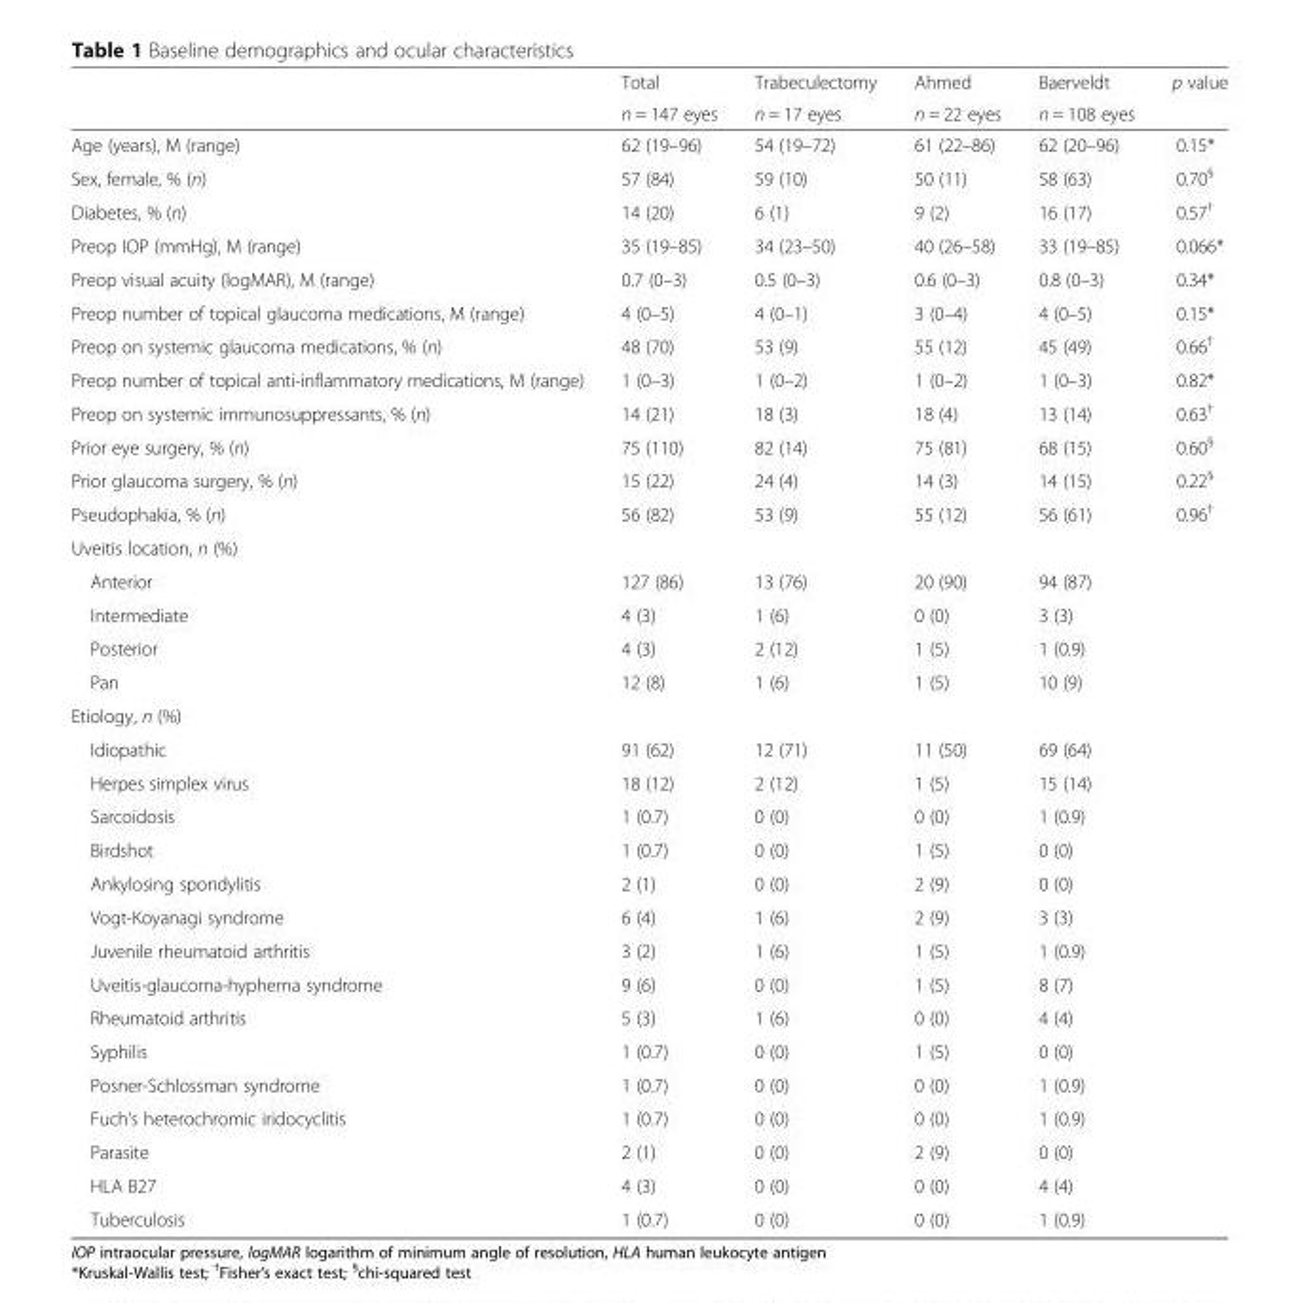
<table><thead><tr><td rowspan="2"></td><td rowspan="2">Total n = 147 eyes</td><td rowspan="2">Trabeculectomy n = 17 eyes</td><td rowspan="2">Ahmed n = 22 eyes</td><td rowspan="2">Baerveldt n = 108 eyes</td><td rowspan="2">p value</td></tr><tr></tr></thead><tbody><tr><td>Age (years), M (range)</td><td>62 (19–96)</td><td>54 (19–72)</td><td>61 (22–86)</td><td>62 (20–96)</td><td>0.15*</td></tr><tr><td>Sex, female, % (n)</td><td>57 (84)</td><td>59 (10)</td><td>50 (11)</td><td>58 (63)</td><td>0.70<sup>§</sup></td></tr><tr><td>Diabetes, % (n)</td><td>14 (20)</td><td>6 (1)</td><td>9 (2)</td><td>16 (17)</td><td>0.57<sup>†</sup></td></tr><tr><td>Preop IOP (mmHg), M (range)</td><td>35 (19–85)</td><td>34 (23–50)</td><td>40 (26–58)</td><td>33 (19–85)</td><td>0.066*</td></tr><tr><td>Preop visual acuity (logMAR), M (range)</td><td>0.7 (0–3)</td><td>0.5 (0–3)</td><td>0.6 (0–3)</td><td>0.8 (0–3)</td><td>0.34*</td></tr><tr><td>Preop number of topical glaucoma medications, M (range)</td><td>4 (0–5)</td><td>4 (0–1)</td><td>3 (0–4)</td><td>4 (0–5)</td><td>0.15*</td></tr><tr><td>Preop on systemic glaucoma medications, % (n)</td><td>48 (70)</td><td>53 (9)</td><td>55 (12)</td><td>45 (49)</td><td>0.66<sup>†</sup></td></tr><tr><td>Preop number of topical anti-inflammatory medications, M (range)</td><td>1 (0–3)</td><td>1 (0–2)</td><td>1 (0–2)</td><td>1 (0–3)</td><td>0.82*</td></tr><tr><td>Preop on systemic immunosuppressants, % (n)</td><td>14 (21)</td><td>18 (3)</td><td>18 (4)</td><td>13 (14)</td><td>0.63<sup>†</sup></td></tr><tr><td>Prior eye surgery, % (n)</td><td>75 (110)</td><td>82 (14)</td><td>75 (81)</td><td>68 (15)</td><td>0.60<sup>§</sup></td></tr><tr><td>Prior glaucoma surgery, % (n)</td><td>15 (22)</td><td>24 (4)</td><td>14 (3)</td><td>14 (15)</td><td>0.22<sup>§</sup></td></tr><tr><td>Pseudophakia, % (n)</td><td>56 (82)</td><td>53 (9)</td><td>55 (12)</td><td>56 (61)</td><td>0.96<sup>†</sup></td></tr><tr><td colspan="6">Uveitis location, n (%)</td></tr><tr><td>Anterior</td><td>127 (86)</td><td>13 (76)</td><td>20 (90)</td><td>94 (87)</td><td></td></tr><tr><td>Intermediate</td><td>4 (3)</td><td>1 (6)</td><td>0 (0)</td><td>3 (3)</td><td></td></tr><tr><td>Posterior</td><td>4 (3)</td><td>2 (12)</td><td>1 (5)</td><td>1 (0.9)</td><td></td></tr><tr><td>Pan</td><td>12 (8)</td><td>1 (6)</td><td>1 (5)</td><td>10 (9)</td><td></td></tr><tr><td colspan="6">Etiology, n (%)</td></tr><tr><td>Idiopathic</td><td>91 (62)</td><td>12 (71)</td><td>11 (50)</td><td>69 (64)</td><td></td></tr><tr><td>Herpes simplex virus</td><td>18 (12)</td><td>2 (12)</td><td>1 (5)</td><td>15 (14)</td><td></td></tr><tr><td>Sarcoidosis</td><td>1 (0.7)</td><td>0 (0)</td><td>0 (0)</td><td>1 (0.9)</td><td></td></tr><tr><td>Birdshot</td><td>1 (0.7)</td><td>0 (0)</td><td>1 (5)</td><td>0 (0)</td><td></td></tr><tr><td>Ankylosing spondylitis</td><td>2 (1)</td><td>0 (0)</td><td>2 (9)</td><td>0 (0)</td><td></td></tr><tr><td>Vogt-Koyanagi syndrome</td><td>6 (4)</td><td>1 (6)</td><td>2 (9)</td><td>3 (3)</td><td></td></tr><tr><td>Juvenile rheumatoid arthritis</td><td>3 (2)</td><td>1 (6)</td><td>1 (5)</td><td>1 (0.9)</td><td></td></tr><tr><td>Uveitis-glaucoma-hyphema syndrome</td><td>9 (6)</td><td>0 (0)</td><td>1 (5)</td><td>8 (7)</td><td></td></tr><tr><td>Rheumatoid arthritis</td><td>5 (3)</td><td>1 (6)</td><td>0 (0)</td><td>4 (4)</td><td></td></tr><tr><td>Syphilis</td><td>1 (0.7)</td><td>0 (0)</td><td>1 (5)</td><td>0 (0)</td><td></td></tr><tr><td>Posner-Schlossman syndrome</td><td>1 (0.7)</td><td>0 (0)</td><td>0 (0)</td><td>1 (0.9)</td><td></td></tr><tr><td>Fuch’s heterochromic iridocyclitis</td><td>1 (0.7)</td><td>0 (0)</td><td>0 (0)</td><td>1 (0.9)</td><td></td></tr><tr><td>Parasite</td><td>2 (1)</td><td>0 (0)</td><td>2 (9)</td><td>0 (0)</td><td></td></tr><tr><td>HLA B27</td><td>4 (3)</td><td>0 (0)</td><td>0 (0)</td><td>4 (4)</td><td></td></tr><tr><td>Tuberculosis</td><td>1 (0.7)</td><td>0 (0)</td><td>0 (0)</td><td>1 (0.9)</td><td></td></tr></tbody></table>